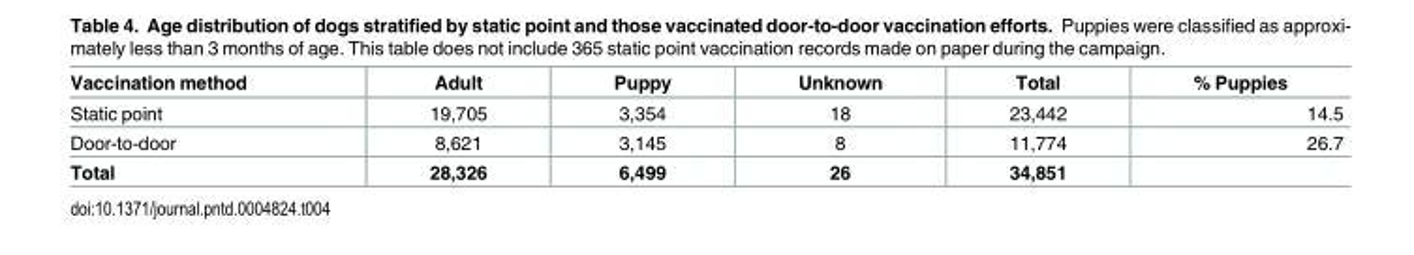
<table><thead><tr><td>Vaccination method</td><td>Adult</td><td>Puppy</td><td>Unknown</td><td>Total</td><td>% Puppies</td></tr></thead><tbody><tr><td>Static point</td><td>19,705</td><td>3,354</td><td>18</td><td>23,442</td><td>14.5</td></tr><tr><td>Door-to-door</td><td>8,621</td><td>3,145</td><td>8</td><td>11,774</td><td>26.7</td></tr><tr><td>Total</td><td>28,326</td><td>6,499</td><td>26</td><td>34,851</td><td></td></tr></tbody></table>